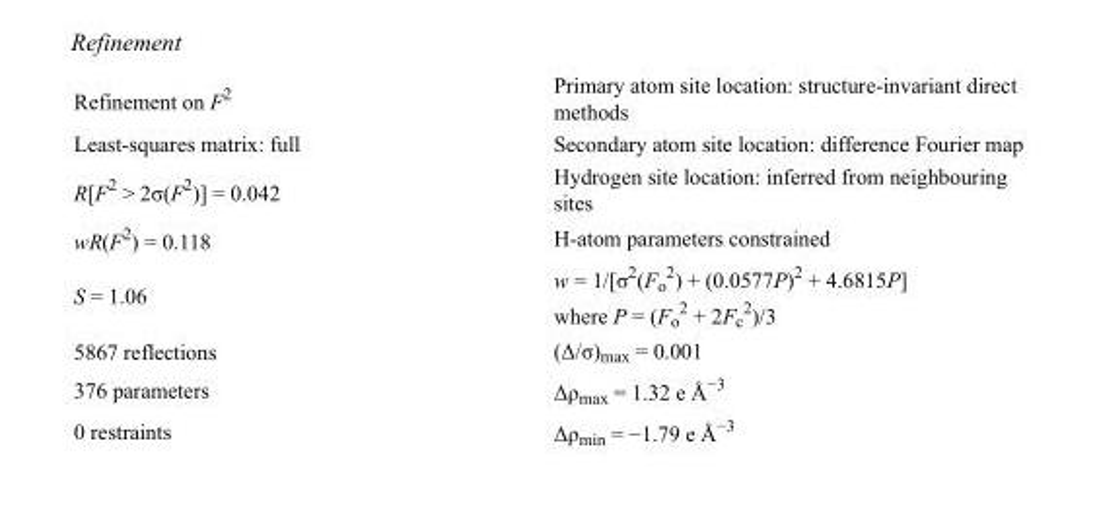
<table><tbody><tr><td>Refinement on F<sup>2</sup></td><td>Primary atom site location: structure-invariant direct methods</td></tr><tr><td>Least-squares matrix: full</td><td>Secondary atom site location: difference Fourier map</td></tr><tr><td>R[F<sup>2</sup> &gt; 2σ(F<sup>2</sup>)] = 0.042</td><td>Hydrogen site location: inferred from neighbouring sites</td></tr><tr><td>wR(F<sup>2</sup>) = 0.118</td><td>H-atom parameters constrained</td></tr><tr><td>S = 1.06</td><td>w = 1/[σ<sup>2</sup>(F<sub>o</sub> <sup>2</sup>) + (0.0577P)<sup>2</sup> + 4.6815P] where P = (F<sub>o</sub> <sup>2</sup> + 2F<sub>c</sub> <sup>2</sup>)/3</td></tr><tr><td>5867 reflections</td><td>(Δ/σ)<sub>max</sub> = 0.001</td></tr><tr><td>376 parameters</td><td>Δρ<sub>max</sub> = 1.32 e Å<sup>−3</sup></td></tr><tr><td>0 restraints</td><td>Δρ<sub>min</sub> = −1.79 e Å<sup>−3</sup></td></tr></tbody></table>